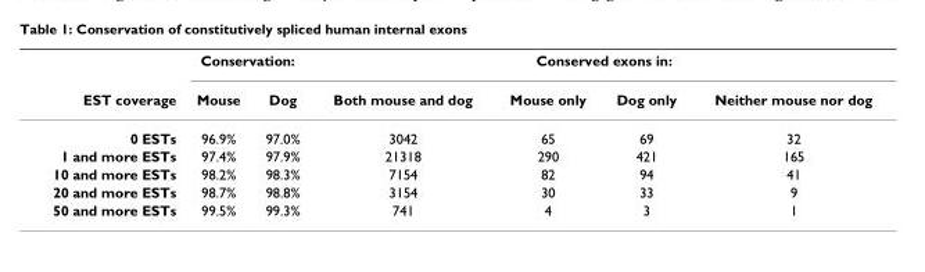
<table><thead><tr><td rowspan="2">EST coverage</td><td colspan="2">Conservation:</td><td colspan="4">Conserved exons in:</td></tr><tr><td>Mouse</td><td>Dog</td><td>Both mouse and dog</td><td>Mouse only</td><td>Dog only</td><td>Neither mouse nor dog</td></tr></thead><tbody><tr><td>0 ESTs</td><td>96.9%</td><td>97.0%</td><td>3042</td><td>65</td><td>69</td><td>32</td></tr><tr><td>1 and more ESTs</td><td>97.4%</td><td>97.9%</td><td>21318</td><td>290</td><td>421</td><td>165</td></tr><tr><td>10 and more ESTs</td><td>98.2%</td><td>98.3%</td><td>7154</td><td>82</td><td>94</td><td>41</td></tr><tr><td>20 and more ESTs</td><td>98.7%</td><td>98.8%</td><td>3154</td><td>30</td><td>33</td><td>9</td></tr><tr><td>50 and more ESTs</td><td>99.5%</td><td>99.3%</td><td>741</td><td>4</td><td>3</td><td>1</td></tr></tbody></table>